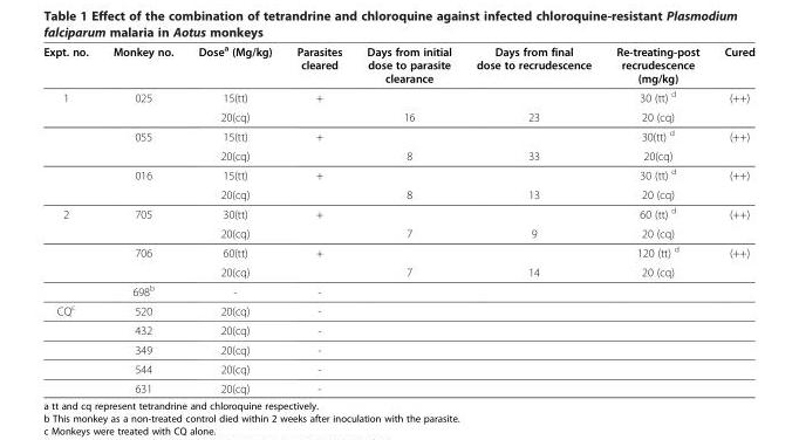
<table><thead><tr><td>Expt. no.</td><td>Monkey no.</td><td>Dose<sup>a</sup> (Mg/kg)</td><td>Parasites cleared</td><td>Days from initial dose to parasite clearance</td><td>Days from final dose to recrudescence</td><td>Re-treating-post recrudescence (mg/kg)</td><td>Cured</td></tr></thead><tbody><tr><td rowspan="6">1</td><td>025</td><td>15(tt)</td><td>+</td><td></td><td></td><td>30 (tt) <sup>d</sup></td><td>(++)</td></tr><tr><td></td><td>20(cq)</td><td></td><td>16</td><td>23</td><td>20 (cq)</td><td></td></tr><tr><td>055</td><td>15(tt)</td><td>+</td><td></td><td></td><td>30(tt) <sup>d</sup></td><td>(++)</td></tr><tr><td></td><td>20(cq)</td><td></td><td>8</td><td>33</td><td>20(cq)</td><td></td></tr><tr><td>016</td><td>15(tt)</td><td>+</td><td></td><td></td><td>30 (tt) <sup>d</sup></td><td>(++)</td></tr><tr><td></td><td>20(cq)</td><td></td><td>8</td><td>13</td><td>20 (cq)</td><td></td></tr><tr><td rowspan="5">2</td><td>705</td><td>30(tt)</td><td>+</td><td></td><td></td><td>60 (tt) <sup>d</sup></td><td>(++)</td></tr><tr><td></td><td>20(cq)</td><td></td><td>7</td><td>9</td><td>20 (cq)</td><td></td></tr><tr><td>706</td><td>60(tt)</td><td>+</td><td></td><td></td><td>120 (tt) <sup>d</sup></td><td>(++)</td></tr><tr><td></td><td>20(cq)</td><td></td><td>7</td><td>14</td><td>20 (cq)</td><td></td></tr><tr><td>698<sup>b</sup></td><td>-</td><td>-</td><td></td><td></td><td></td><td></td></tr><tr><td rowspan="5">CQ<sup>c</sup></td><td>520</td><td>20(cq)</td><td>-</td><td></td><td></td><td></td><td></td></tr><tr><td>432</td><td>20(cq)</td><td>-</td><td></td><td></td><td></td><td></td></tr><tr><td>349</td><td>20(cq)</td><td>-</td><td></td><td></td><td></td><td></td></tr><tr><td>544</td><td>20(cq)</td><td>-</td><td></td><td></td><td></td><td></td></tr><tr><td>631</td><td>20(cq)</td><td>-</td><td></td><td></td><td></td><td></td></tr></tbody></table>